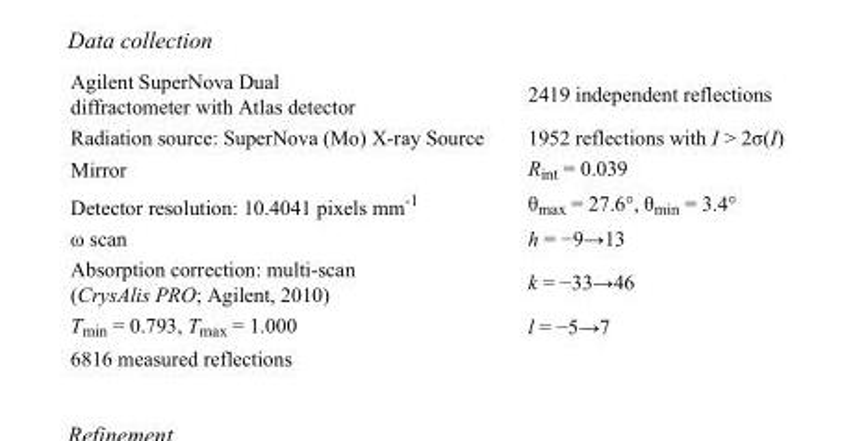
<table><tbody><tr><td>Agilent SuperNova Dual diffractometer with Atlas detector</td><td>2419 independent reflections</td></tr><tr><td>Radiation source: SuperNova (Mo) X-ray Source</td><td>1952 reflections with I &gt; 2σ(I)</td></tr><tr><td>Mirror</td><td>R<sub>int</sub> = 0.039</td></tr><tr><td>Detector resolution: 10.4041 pixels mm<sup>-1</sup></td><td>θ<sub>max</sub> = 27.6°, θ<sub>min</sub> = 3.4°</td></tr><tr><td>ω scan</td><td>h = −9→13</td></tr><tr><td>Absorption correction: multi-scan (CrysAlis PRO; Agilent, 2010)</td><td>k = −33→46</td></tr><tr><td>T<sub>min</sub> = 0.793, T<sub>max</sub> = 1.000</td><td>l = −5→7</td></tr><tr><td>6816 measured reflections</td><td></td></tr></tbody></table>